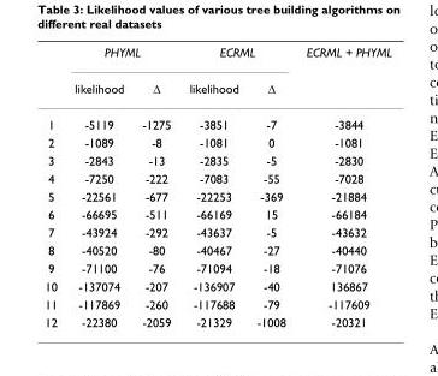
<table><thead><tr><td rowspan="2"></td><td colspan="2">PHYML</td><td colspan="2">ECRML</td><td rowspan="2">ECRML + PHYML</td></tr><tr><td>likelihood</td><td>Δ</td><td>likelihood</td><td>Δ</td></tr></thead><tbody><tr><td>1</td><td>-5119</td><td>-1275</td><td>-3851</td><td>-7</td><td>-3844</td></tr><tr><td>2</td><td>-1089</td><td>-8</td><td>-1081</td><td>0</td><td>-1081</td></tr><tr><td>3</td><td>-2843</td><td>-13</td><td>-2835</td><td>-5</td><td>-2830</td></tr><tr><td>4</td><td>-7250</td><td>-222</td><td>-7083</td><td>-55</td><td>-7028</td></tr><tr><td>5</td><td>-22561</td><td>-677</td><td>-22253</td><td>-369</td><td>-21884</td></tr><tr><td>6</td><td>-66695</td><td>-511</td><td>-66169</td><td>15</td><td>-66184</td></tr><tr><td>7</td><td>-43924</td><td>-292</td><td>-43637</td><td>-5</td><td>-43632</td></tr><tr><td>8</td><td>-40520</td><td>-80</td><td>-40467</td><td>-27</td><td>-40440</td></tr><tr><td>9</td><td>-71100</td><td>-76</td><td>-71094</td><td>-18</td><td>-71076</td></tr><tr><td>10</td><td>-137074</td><td>-207</td><td>-136907</td><td>-40</td><td>136867</td></tr><tr><td>11</td><td>-117869</td><td>-260</td><td>-117688</td><td>-79</td><td>-117609</td></tr><tr><td>12</td><td>-22380</td><td>-2059</td><td>-21329</td><td>-1008</td><td>-20321</td></tr></tbody></table>